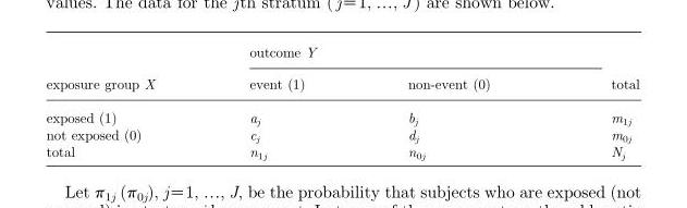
<table><thead><tr><td rowspan="2">exposure group X</td><td colspan="2">outcome Y</td><td rowspan="2">total</td></tr><tr><td>event (1)</td><td>non-event (0)</td></tr></thead><tbody><tr><td>exposed (1)</td><td>a<sub>j</sub></td><td>b<sub>j</sub></td><td>m<sub>1j</sub></td></tr><tr><td>not exposed (0)</td><td>c<sub>j</sub></td><td>d<sub>j</sub></td><td>m<sub>0j</sub></td></tr><tr><td>total</td><td>n<sub>1j</sub></td><td>n<sub>0j</sub></td><td>N<sub>j</sub></td></tr></tbody></table>